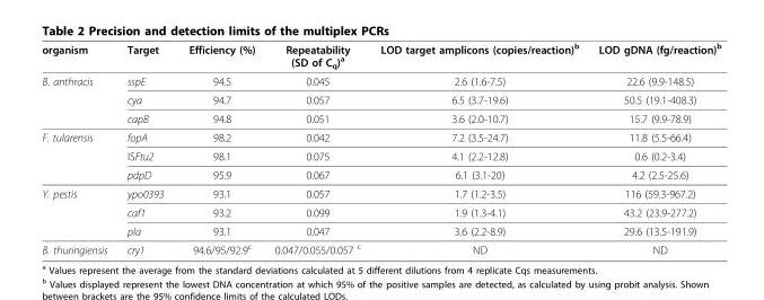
<table><thead><tr><td>organism</td><td>Target</td><td>Efficiency (%)</td><td>Repeatability (SD of C<sub>q</sub>)<sup>a</sup></td><td>LOD target amplicons (copies/reaction)<sup>b</sup></td><td>LOD gDNA (fg/reaction)<sup>b</sup></td></tr></thead><tbody><tr><td rowspan="3">B. anthracis</td><td>sspE</td><td>94.5</td><td>0.045</td><td>2.6 (1.6-7.5)</td><td>22.6 (9.9-148.5)</td></tr><tr><td>cya</td><td>94.7</td><td>0.057</td><td>6.5 (3.7-19.6)</td><td>50.5 (19.1-408.3)</td></tr><tr><td>capB</td><td>94.8</td><td>0.051</td><td>3.6 (2.0-10.7)</td><td>15.7 (9.9-78.9)</td></tr><tr><td rowspan="3">F. tularensis</td><td>fopA</td><td>98.2</td><td>0.042</td><td>7.2 (3.5-24.7)</td><td>11.8 (5.5-66.4)</td></tr><tr><td>ISFtu2</td><td>98.1</td><td>0.075</td><td>4.1 (2.2-12.8)</td><td>0.6 (0.2-3.4)</td></tr><tr><td>pdpD</td><td>95.9</td><td>0.067</td><td>6.1 (3.1-20)</td><td>4.2 (2.5-25.6)</td></tr><tr><td rowspan="3">Y. pestis</td><td>ypo0393</td><td>93.1</td><td>0.057</td><td>1.7 (1.2-3.5)</td><td>116 (59.3-967.2)</td></tr><tr><td>caf1</td><td>93.2</td><td>0.099</td><td>1.9 (1.3-4.1)</td><td>43.2 (23.9-277.2)</td></tr><tr><td>pla</td><td>93.1</td><td>0.047</td><td>3.6 (2.2-8.9)</td><td>29.6 (13.5-191.9)</td></tr><tr><td>B. thuringiensis</td><td>cry1</td><td>94.6/95/92.9<sup>c</sup></td><td>0.047/0.055/0.057 <sup>c</sup></td><td>ND</td><td>ND</td></tr></tbody></table>